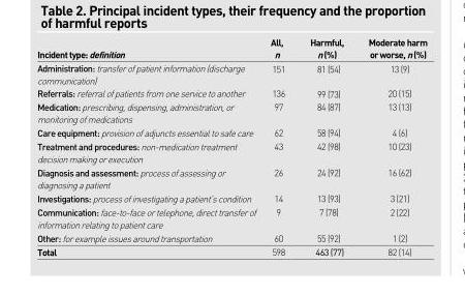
<table><thead><tr><td>Incident type: definition</td><td>All, n</td><td>Harmful, n (%)</td><td>Moderate harm or worse, n (%)</td></tr></thead><tbody><tr><td>Administration: transfer of patient information (discharge communication)</td><td>151</td><td>81 (54)</td><td>13 (9)</td></tr><tr><td>Referrals: referral of patients from one service to another</td><td>136</td><td>99 (73)</td><td>20 (15)</td></tr><tr><td>Medication: prescribing, dispensing, administration, or monitoring of medications</td><td>97</td><td>84 (87)</td><td>13 (13)</td></tr><tr><td>Care equipment: provision of adjuncts essential to safe care</td><td>62</td><td>58 (94)</td><td>4 (6)</td></tr><tr><td>Treatment and procedures: non-medication treatment decision making or execution</td><td>43</td><td>42 (98)</td><td>10 (23)</td></tr><tr><td>Diagnosis and assessment: process of assessing or diagnosing a patient</td><td>26</td><td>24 (92)</td><td>16 (62)</td></tr><tr><td>Investigations: process of investigating a patient’s condition</td><td>14</td><td>13 (93)</td><td>3 (21)</td></tr><tr><td>Communication: face-to-face or telephone, direct transfer of information relating to patient care</td><td>9</td><td>7 (78)</td><td>2 (22)</td></tr><tr><td>Other: for example issues around transportation</td><td>60</td><td>55 (92)</td><td>1 (2)</td></tr><tr><td>Total</td><td>598</td><td>463 (77)</td><td>82 (14)</td></tr></tbody></table>